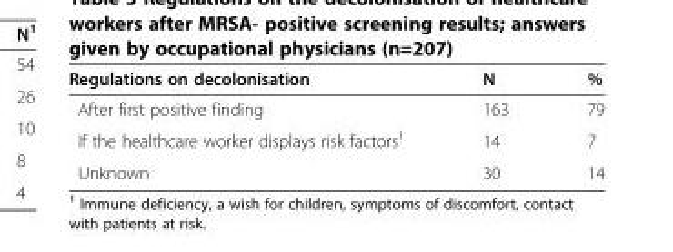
<table><thead><tr><td>Regulations on decolonisation</td><td>N</td><td>%</td></tr></thead><tbody><tr><td>After first positive finding</td><td>163</td><td>79</td></tr><tr><td>If the healthcare worker displays risk factors<sup>1</sup></td><td>14</td><td>7</td></tr><tr><td>Unknown</td><td>30</td><td>14</td></tr></tbody></table>